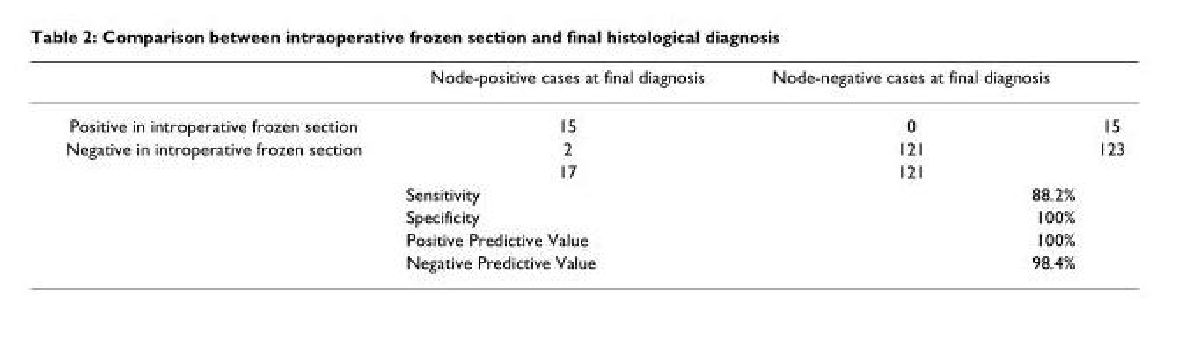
<table><thead><tr><td></td><td>Node-positive cases at final diagnosis</td><td>Node-negative cases at final diagnosis</td><td></td></tr></thead><tbody><tr><td>Positive in introperative frozen section</td><td>15</td><td>0</td><td>15</td></tr><tr><td rowspan="6">Negative in introperative frozen section</td><td>2</td><td>121</td><td>123</td></tr><tr><td>17</td><td>121</td><td></td></tr><tr><td>Sensitivity</td><td>88.2%</td><td></td></tr><tr><td>Specificity</td><td>100%</td><td></td></tr><tr><td>Positive Predictive Value</td><td>100%</td><td></td></tr><tr><td>Negative Predictive Value</td><td>98.4%</td><td></td></tr></tbody></table>